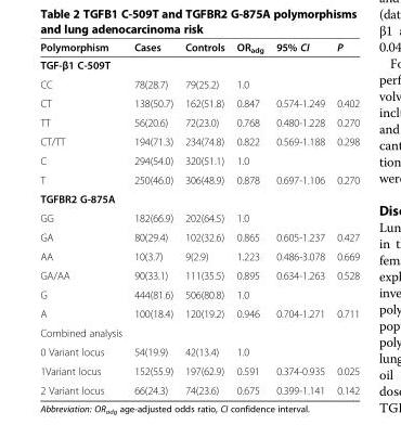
<table><thead><tr><td>Polymorphism</td><td>Cases</td><td>Controls</td><td>OR<sub>adg</sub></td><td>95% CI</td><td>P</td></tr></thead><tbody><tr><td colspan="6">TGF-β1 C-509T</td></tr><tr><td>CC</td><td>78(28.7)</td><td>79(25.2)</td><td>1.0</td><td></td><td></td></tr><tr><td>CT</td><td>138(50.7)</td><td>162(51.8)</td><td>0.847</td><td>0.574-1.249</td><td>0.402</td></tr><tr><td>TT</td><td>56(20.6)</td><td>72(23.0)</td><td>0.768</td><td>0.480-1.228</td><td>0.270</td></tr><tr><td>CT/TT</td><td>194(71.3)</td><td>234(74.8)</td><td>0.822</td><td>0.569-1.188</td><td>0.298</td></tr><tr><td>C</td><td>294(54.0)</td><td>320(51.1)</td><td>1.0</td><td></td><td></td></tr><tr><td>T</td><td>250(46.0)</td><td>306(48.9)</td><td>0.878</td><td>0.697-1.106</td><td>0.270</td></tr><tr><td colspan="6">TGFBR2 G-875A</td></tr><tr><td>GG</td><td>182(66.9)</td><td>202(64.5)</td><td>1.0</td><td></td><td></td></tr><tr><td>GA</td><td>80(29.4)</td><td>102(32.6)</td><td>0.865</td><td>0.605-1.237</td><td>0.427</td></tr><tr><td>AA</td><td>10(3.7)</td><td>9(2.9)</td><td>1.223</td><td>0.486-3.078</td><td>0.669</td></tr><tr><td>GA/AA</td><td>90(33.1)</td><td>111(35.5)</td><td>0.895</td><td>0.634-1.263</td><td>0.528</td></tr><tr><td>G</td><td>444(81.6)</td><td>506(80.8)</td><td>1.0</td><td></td><td></td></tr><tr><td>A</td><td>100(18.4)</td><td>120(19.2)</td><td>0.946</td><td>0.704-1.271</td><td>0.711</td></tr><tr><td colspan="6">Combined analysis</td></tr><tr><td>0 Variant locus</td><td>54(19.9)</td><td>42(13.4)</td><td>1.0</td><td></td><td></td></tr><tr><td>1Variant locus</td><td>152(55.9)</td><td>197(62.9)</td><td>0.591</td><td>0.374-0.935</td><td>0.025</td></tr><tr><td>2 Variant locus</td><td>66(24.3)</td><td>74(23.6)</td><td>0.675</td><td>0.399-1.141</td><td>0.142</td></tr></tbody></table>